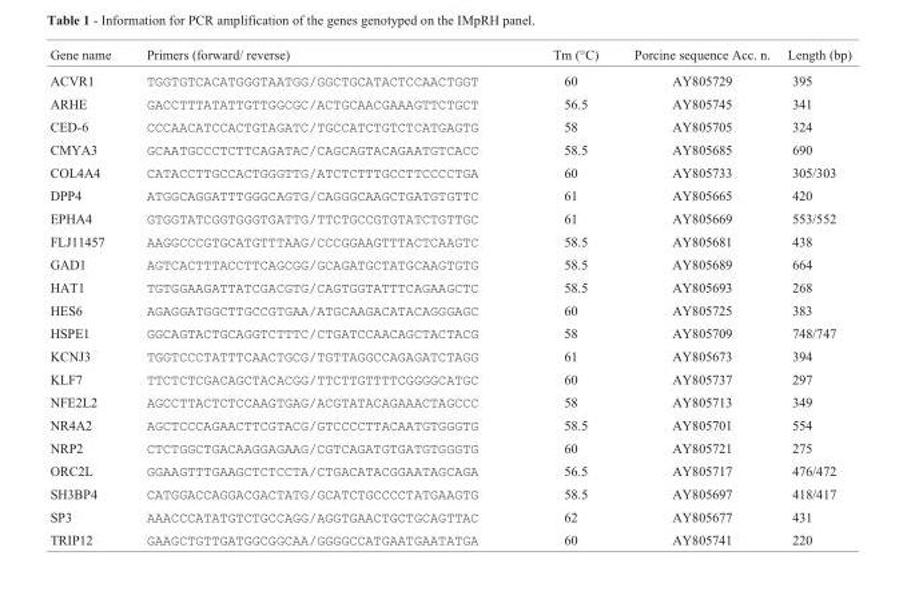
<table><thead><tr><td>Gene name</td><td>Primers (forward/ reverse)</td><td>Tm (°C)</td><td>Porcine sequence Acc. n.</td><td>Length (bp)</td></tr></thead><tbody><tr><td>ACVR1</td><td>TGGTGTCACATGGGTAATGG/GGCTGCATACTCCAACTGGT</td><td>60</td><td>AY805729</td><td>395</td></tr><tr><td>ARHE</td><td>GACCTTTATATTGTTGGCGC/ACTGCAACGAAAGTTCTGCT</td><td>56.5</td><td>AY805745</td><td>341</td></tr><tr><td>CED-6</td><td>CCCAACATCCACTGTAGATC/TGCCATCTGTCTCATGAGTG</td><td>58</td><td>AY805705</td><td>324</td></tr><tr><td>CMYA3</td><td>GCAATGCCCTCTTCAGATAC/CAGCAGTACAGAATGTCACC</td><td>58.5</td><td>AY805685</td><td>690</td></tr><tr><td>COL4A4</td><td>CATACCTTGCCACTGGGTTG/ATCTCTTTGCCTTCCCCTGA</td><td>60</td><td>AY805733</td><td>305/303</td></tr><tr><td>DPP4</td><td>ATGGCAGGATTTGGGCAGTG/CAGGGCAAGCTGATGTGTTC</td><td>61</td><td>AY805665</td><td>420</td></tr><tr><td>EPHA4</td><td>GTGGTATCGGTGGGTGATTG/TTCTGCCGTGTATCTGTTGC</td><td>61</td><td>AY805669</td><td>553/552</td></tr><tr><td>FLJ11457</td><td>AAGGCCCGTGCATGTTTAAG/CCCGGAAGTTTACTCAAGTC</td><td>58.5</td><td>AY805681</td><td>438</td></tr><tr><td>GAD1</td><td>AGTCACTTTACCTTCAGCGG/GCAGATGCTATGCAAGTGTG</td><td>58.5</td><td>AY805689</td><td>664</td></tr><tr><td>HAT1</td><td>TGTGGAAGATTATCGACGTG/CAGTGGTATTTCAGAAGCTC</td><td>58.5</td><td>AY805693</td><td>268</td></tr><tr><td>HES6</td><td>AGAGGATGGCTTGCCGTGAA/ATGCAAGACATACAGGGAGC</td><td>60</td><td>AY805725</td><td>383</td></tr><tr><td>HSPE1</td><td>GGCAGTACTGCAGGTCTTTC/CTGATCCAACAGCTACTACG</td><td>58</td><td>AY805709</td><td>748/747</td></tr><tr><td>KCNJ3</td><td>TGGTCCCTATTTCAACTGCG/TGTTAGGCCAGAGATCTAGG</td><td>61</td><td>AY805673</td><td>394</td></tr><tr><td>KLF7</td><td>TTCTCTCGACAGCTACACGG/TTCTTGTTTTCGGGGCATGC</td><td>60</td><td>AY805737</td><td>297</td></tr><tr><td>NFE2L2</td><td>AGCCTTACTCTCCAAGTGAG/ACGTATACAGAAACTAGCCC</td><td>58</td><td>AY805713</td><td>349</td></tr><tr><td>NR4A2</td><td>AGCTCCCAGAACTTCGTACG/GTCCCCTTACAATGTGGGTG</td><td>58.5</td><td>AY805701</td><td>554</td></tr><tr><td>NRP2</td><td>CTCTGGCTGACAAGGAGAAG/CGTCAGATGTGATGTGGGTG</td><td>60</td><td>AY805721</td><td>275</td></tr><tr><td>ORC2L</td><td>GGAAGTTTGAAGCTCTCCTA/CTGACATACGGAATAGCAGA</td><td>56.5</td><td>AY805717</td><td>476/472</td></tr><tr><td>SH3BP4</td><td>CATGGACCAGGACGACTATG/GCATCTGCCCCTATGAAGTG</td><td>58.5</td><td>AY805697</td><td>418/417</td></tr><tr><td>SP3</td><td>AAACCCATATGTCTGCCAGG/AGGTGAACTGCTGCAGTTAC</td><td>62</td><td>AY805677</td><td>431</td></tr><tr><td>TRIP12</td><td>GAAGCTGTTGATGGCGGCAA/GGGGCCATGAATGAATATGA</td><td>60</td><td>AY805741</td><td>220</td></tr></tbody></table>